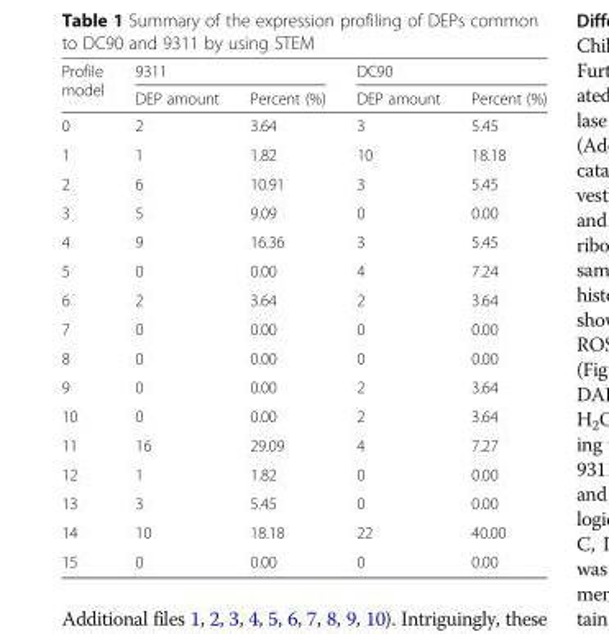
<table><thead><tr><td rowspan="2">Profile model</td><td colspan="2">9311</td><td colspan="2">DC90</td></tr><tr><td>DEP amount</td><td>Percent (%)</td><td>DEP amount</td><td>Percent (%)</td></tr></thead><tbody><tr><td>0</td><td>2</td><td>3.64</td><td>3</td><td>5.45</td></tr><tr><td>1</td><td>1</td><td>1.82</td><td>10</td><td>18.18</td></tr><tr><td>2</td><td>6</td><td>10.91</td><td>3</td><td>5.45</td></tr><tr><td>3</td><td>5</td><td>9.09</td><td>0</td><td>0.00</td></tr><tr><td>4</td><td>9</td><td>16.36</td><td>3</td><td>5.45</td></tr><tr><td>5</td><td>0</td><td>0.00</td><td>4</td><td>7.24</td></tr><tr><td>6</td><td>2</td><td>3.64</td><td>2</td><td>3.64</td></tr><tr><td>7</td><td>0</td><td>0.00</td><td>0</td><td>0.00</td></tr><tr><td>8</td><td>0</td><td>0.00</td><td>0</td><td>0.00</td></tr><tr><td>9</td><td>0</td><td>0.00</td><td>2</td><td>3.64</td></tr><tr><td>10</td><td>0</td><td>0.00</td><td>2</td><td>3.64</td></tr><tr><td>11</td><td>16</td><td>29.09</td><td>4</td><td>7.27</td></tr><tr><td>12</td><td>1</td><td>1.82</td><td>0</td><td>0.00</td></tr><tr><td>13</td><td>3</td><td>5.45</td><td>0</td><td>0.00</td></tr><tr><td>14</td><td>10</td><td>18.18</td><td>22</td><td>40.00</td></tr><tr><td>15</td><td>0</td><td>0.00</td><td>0</td><td>0.00</td></tr></tbody></table>